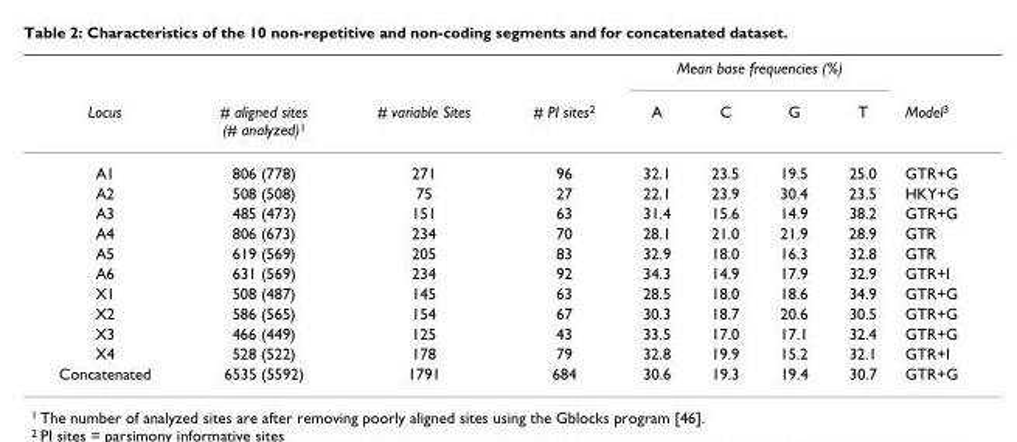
<table><thead><tr><td rowspan="2">Locus</td><td rowspan="2"># aligned sites (# analyzed)<sup>1</sup></td><td rowspan="2"># variable Sites</td><td rowspan="2"># PI sites<sup>2</sup></td><td colspan="4">Mean base frequencies (%)</td><td rowspan="2">Model<sup>3</sup></td></tr><tr><td>A</td><td>C</td><td>G</td><td>T</td></tr></thead><tbody><tr><td>A1</td><td>806 (778)</td><td>271</td><td>96</td><td>32.1</td><td>23.5</td><td>19.5</td><td>25.0</td><td>GTR+G</td></tr><tr><td>A2</td><td>508 (508)</td><td>75</td><td>27</td><td>22.1</td><td>23.9</td><td>30.4</td><td>23.5</td><td>HKY+G</td></tr><tr><td>A3</td><td>485 (473)</td><td>151</td><td>63</td><td>31.4</td><td>15.6</td><td>14.9</td><td>38.2</td><td>GTR+G</td></tr><tr><td>A4</td><td>806 (673)</td><td>234</td><td>70</td><td>28.1</td><td>21.0</td><td>21.9</td><td>28.9</td><td>GTR</td></tr><tr><td>A5</td><td>619 (569)</td><td>205</td><td>83</td><td>32.9</td><td>18.0</td><td>16.3</td><td>32.8</td><td>GTR</td></tr><tr><td>A6</td><td>631 (569)</td><td>234</td><td>92</td><td>34.3</td><td>14.9</td><td>17.9</td><td>32.9</td><td>GTR+I</td></tr><tr><td>X1</td><td>508 (487)</td><td>145</td><td>63</td><td>28.5</td><td>18.0</td><td>18.6</td><td>34.9</td><td>GTR+G</td></tr><tr><td>X2</td><td>586 (565)</td><td>154</td><td>67</td><td>30.3</td><td>18.7</td><td>20.6</td><td>30.5</td><td>GTR+G</td></tr><tr><td>X3</td><td>466 (449)</td><td>125</td><td>43</td><td>33.5</td><td>17.0</td><td>17.1</td><td>32.4</td><td>GTR+G</td></tr><tr><td>X4</td><td>528 (522)</td><td>178</td><td>79</td><td>32.8</td><td>19.9</td><td>15.2</td><td>32.1</td><td>GTR+I</td></tr><tr><td>Concatenated</td><td>6535 (5592)</td><td>1791</td><td>684</td><td>30.6</td><td>19.3</td><td>19.4</td><td>30.7</td><td>GTR+G</td></tr></tbody></table>